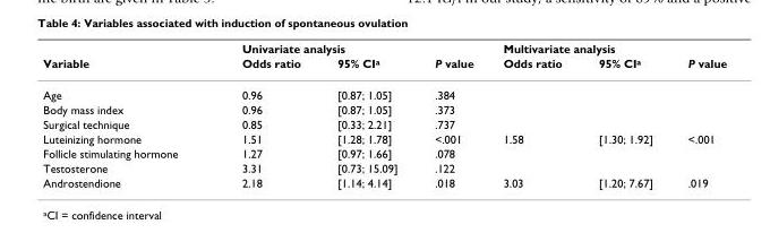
<table><thead><tr><td rowspan="2">Variable</td><td colspan="3">Univariate analysis</td><td colspan="3">Multivariate analysis</td></tr><tr><td>Odds ratio</td><td>95% CI<sup>a</sup></td><td>P value</td><td>Odds ratio</td><td>95% CI<sup>a</sup></td><td>P value</td></tr></thead><tbody><tr><td>Age</td><td>0.96</td><td>[0.87; 1.05]</td><td>.384</td><td></td><td></td><td></td></tr><tr><td>Body mass index</td><td>0.96</td><td>[0.87; 1.05]</td><td>.373</td><td></td><td></td><td></td></tr><tr><td>Surgical technique</td><td>0.85</td><td>[0.33; 2.21]</td><td>.737</td><td></td><td></td><td></td></tr><tr><td>Luteinizing hormone</td><td>1.51</td><td>[1.28; 1.78]</td><td>&lt;.001</td><td>1.58</td><td>[1.30; 1.92]</td><td>&lt;.001</td></tr><tr><td>Follicle stimulating hormone</td><td>1.27</td><td>[0.97; 1.66]</td><td>.078</td><td></td><td></td><td></td></tr><tr><td>Testosterone</td><td>3.31</td><td>[0.73; 15.09]</td><td>.122</td><td></td><td></td><td></td></tr><tr><td>Androstendione</td><td>2.18</td><td>[1.14; 4.14]</td><td>.018</td><td>3.03</td><td>[1.20; 7.67]</td><td>.019</td></tr></tbody></table>